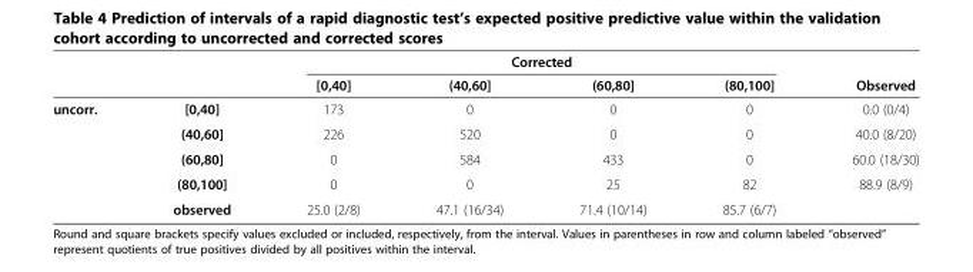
<table><thead><tr><td rowspan="2"></td><td rowspan="2"></td><td colspan="4">Corrected</td><td rowspan="2">Observed</td></tr><tr><td>[0,40]</td><td>(40,60]</td><td>(60,80]</td><td>(80,100]</td></tr></thead><tbody><tr><td rowspan="5">uncorr.</td><td>[0,40]</td><td>173</td><td>0</td><td>0</td><td>0</td><td>0.0 (0/4)</td></tr><tr><td>(40,60]</td><td>226</td><td>520</td><td>0</td><td>0</td><td>40.0 (8/20)</td></tr><tr><td>(60,80]</td><td>0</td><td>584</td><td>433</td><td>0</td><td>60.0 (18/30)</td></tr><tr><td>(80,100]</td><td>0</td><td>0</td><td>25</td><td>82</td><td>88.9 (8/9)</td></tr><tr><td>observed</td><td>25.0 (2/8)</td><td>47.1 (16/34)</td><td>71.4 (10/14)</td><td>85.7 (6/7)</td><td></td></tr></tbody></table>